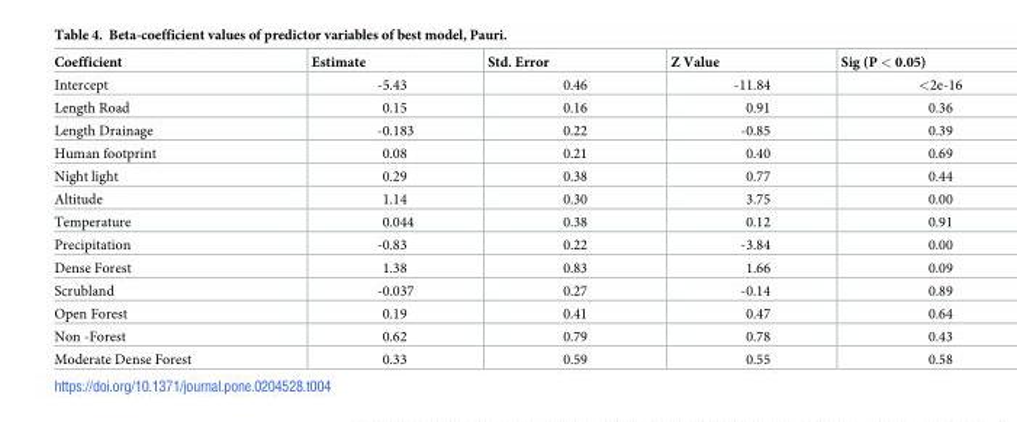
<table><thead><tr><td>Coefficient</td><td>Estimate</td><td>Std. Error</td><td>Z Value</td><td>Sig (P &lt; 0.05)</td></tr></thead><tbody><tr><td>Intercept</td><td>-5.43</td><td>0.46</td><td>-11.84</td><td>&lt;2e-16</td></tr><tr><td>Length Road</td><td>0.15</td><td>0.16</td><td>0.91</td><td>0.36</td></tr><tr><td>Length Drainage</td><td>-0.183</td><td>0.22</td><td>-0.85</td><td>0.39</td></tr><tr><td>Human footprint</td><td>0.08</td><td>0.21</td><td>0.40</td><td>0.69</td></tr><tr><td>Night light</td><td>0.29</td><td>0.38</td><td>0.77</td><td>0.44</td></tr><tr><td>Altitude</td><td>1.14</td><td>0.30</td><td>3.75</td><td>0.00</td></tr><tr><td>Temperature</td><td>0.044</td><td>0.38</td><td>0.12</td><td>0.91</td></tr><tr><td>Precipitation</td><td>-0.83</td><td>0.22</td><td>-3.84</td><td>0.00</td></tr><tr><td>Dense Forest</td><td>1.38</td><td>0.83</td><td>1.66</td><td>0.09</td></tr><tr><td>Scrubland</td><td>-0.037</td><td>0.27</td><td>-0.14</td><td>0.89</td></tr><tr><td>Open Forest</td><td>0.19</td><td>0.41</td><td>0.47</td><td>0.64</td></tr><tr><td>Non -Forest</td><td>0.62</td><td>0.79</td><td>0.78</td><td>0.43</td></tr><tr><td>Moderate Dense Forest</td><td>0.33</td><td>0.59</td><td>0.55</td><td>0.58</td></tr></tbody></table>